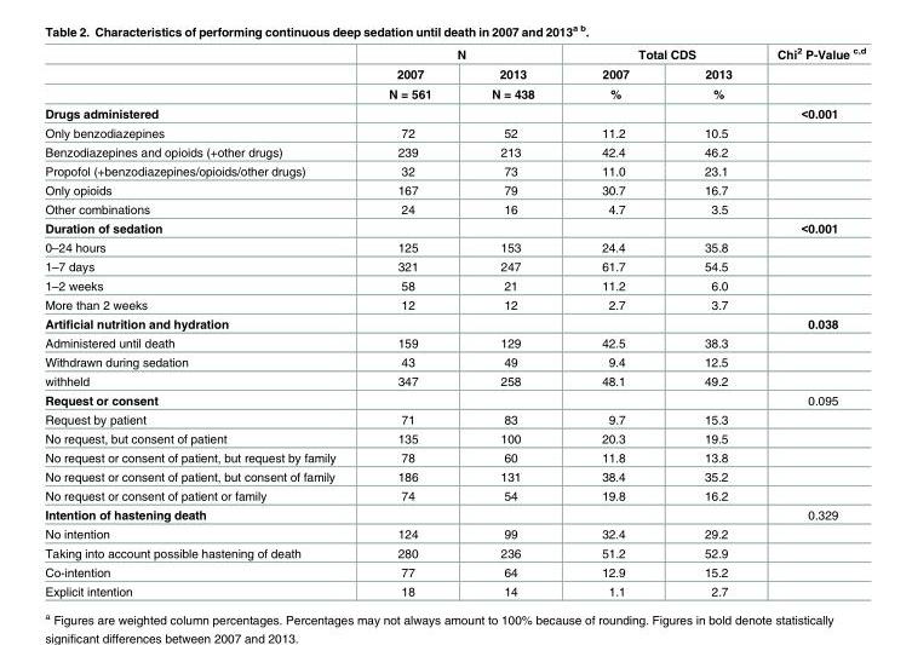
<table><thead><tr><td rowspan="3"></td><td colspan="2">N</td><td colspan="2">Total CDS</td><td rowspan="3">Chi<sup>2</sup> P-Value <sup>c,d</sup></td></tr><tr><td rowspan="2">2007 N = 561</td><td rowspan="2">2013 N = 438</td><td rowspan="2">2007 %</td><td rowspan="2">2013 %</td></tr><tr></tr></thead><tbody><tr><td>Drugs administered</td><td></td><td></td><td></td><td></td><td>&lt;0.001</td></tr><tr><td>Only benzodiazepines</td><td>72</td><td>52</td><td>11.2</td><td>10.5</td><td></td></tr><tr><td>Benzodiazepines and opioids (+other drugs)</td><td>239</td><td>213</td><td>42.4</td><td>46.2</td><td></td></tr><tr><td>Propofol (+benzodiazepines/opioids/other drugs)</td><td>32</td><td>73</td><td>11.0</td><td>23.1</td><td></td></tr><tr><td>Only opioids</td><td>167</td><td>79</td><td>30.7</td><td>16.7</td><td></td></tr><tr><td>Other combinations</td><td>24</td><td>16</td><td>4.7</td><td>3.5</td><td></td></tr><tr><td>Duration of sedation</td><td></td><td></td><td></td><td></td><td>&lt;0.001</td></tr><tr><td>0–24 hours</td><td>125</td><td>153</td><td>24.4</td><td>35.8</td><td></td></tr><tr><td>1–7 days</td><td>321</td><td>247</td><td>61.7</td><td>54.5</td><td></td></tr><tr><td>1–2 weeks</td><td>58</td><td>21</td><td>11.2</td><td>6.0</td><td></td></tr><tr><td>More than 2 weeks</td><td>12</td><td>12</td><td>2.7</td><td>3.7</td><td></td></tr><tr><td>Artificial nutrition and hydration</td><td></td><td></td><td></td><td></td><td>0.038</td></tr><tr><td>Administered until death</td><td>159</td><td>129</td><td>42.5</td><td>38.3</td><td></td></tr><tr><td>Withdrawn during sedation</td><td>43</td><td>49</td><td>9.4</td><td>12.5</td><td></td></tr><tr><td>withheld</td><td>347</td><td>258</td><td>48.1</td><td>49.2</td><td></td></tr><tr><td>Request or consent</td><td></td><td></td><td></td><td></td><td>0.095</td></tr><tr><td>Request by patient</td><td>71</td><td>83</td><td>9.7</td><td>15.3</td><td></td></tr><tr><td>No request, but consent of patient</td><td>135</td><td>100</td><td>20.3</td><td>19.5</td><td></td></tr><tr><td>No request or consent of patient, but request by family</td><td>78</td><td>60</td><td>11.8</td><td>13.8</td><td></td></tr><tr><td>No request or consent of patient, but consent of family</td><td>186</td><td>131</td><td>38.4</td><td>35.2</td><td></td></tr><tr><td>No request or consent of patient or family</td><td>74</td><td>54</td><td>19.8</td><td>16.2</td><td></td></tr><tr><td>Intention of hastening death</td><td></td><td></td><td></td><td></td><td>0.329</td></tr><tr><td>No intention</td><td>124</td><td>99</td><td>32.4</td><td>29.2</td><td></td></tr><tr><td>Taking into account possible hastening of death</td><td>280</td><td>236</td><td>51.2</td><td>52.9</td><td></td></tr><tr><td>Co-intention</td><td>77</td><td>64</td><td>12.9</td><td>15.2</td><td></td></tr><tr><td>Explicit intention</td><td>18</td><td>14</td><td>1.1</td><td>2.7</td><td></td></tr></tbody></table>